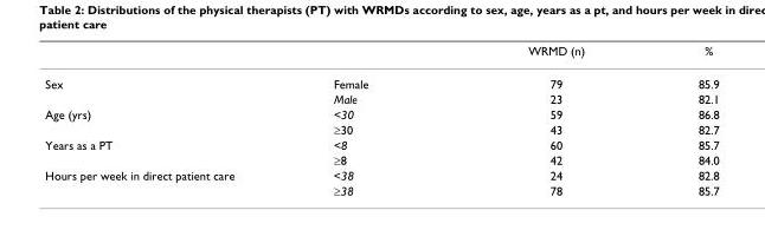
<table><thead><tr><td></td><td></td><td>WRMD (n)</td><td>%</td></tr></thead><tbody><tr><td rowspan="2">Sex</td><td>Female</td><td>79</td><td>85.9</td></tr><tr><td>Male</td><td>23</td><td>82.1</td></tr><tr><td rowspan="2">Age (yrs)</td><td>&lt;30</td><td>59</td><td>86.8</td></tr><tr><td>≥30</td><td>43</td><td>82.7</td></tr><tr><td rowspan="2">Years as a PT</td><td>&lt;8</td><td>60</td><td>85.7</td></tr><tr><td>≥8</td><td>42</td><td>84.0</td></tr><tr><td rowspan="2">Hours per week in direct patient care</td><td>&lt;38</td><td>24</td><td>82.8</td></tr><tr><td>≥38</td><td>78</td><td>85.7</td></tr></tbody></table>